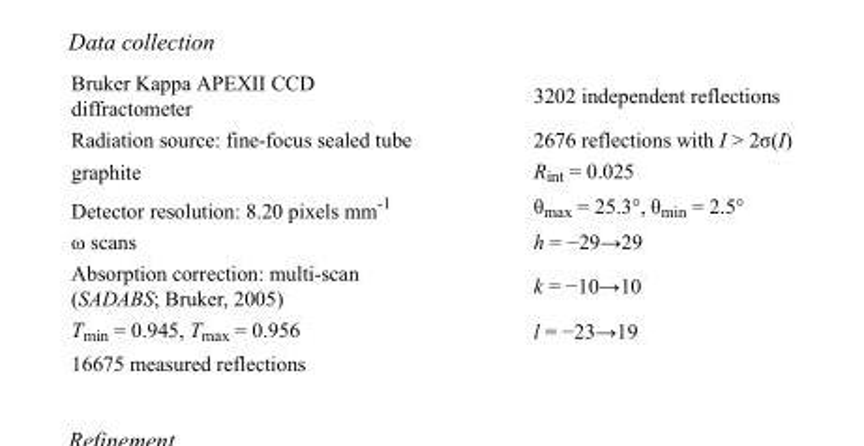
<table><tbody><tr><td>Bruker Kappa APEXII CCD diffractometer</td><td>3202 independent reflections</td></tr><tr><td>Radiation source: fine-focus sealed tube</td><td>2676 reflections with I &gt; 2σ(I)</td></tr><tr><td>graphite</td><td>R<sub>int</sub> = 0.025</td></tr><tr><td>Detector resolution: 8.20 pixels mm<sup>-1</sup></td><td>θ<sub>max</sub> = 25.3°, θ<sub>min</sub> = 2.5°</td></tr><tr><td>ω scans</td><td>h = −29→29</td></tr><tr><td>Absorption correction: multi-scan (SADABS; Bruker, 2005)</td><td>k = −10→10</td></tr><tr><td>T<sub>min</sub> = 0.945, T<sub>max</sub> = 0.956</td><td>l = −23→19</td></tr><tr><td>16675 measured reflections</td><td></td></tr></tbody></table>